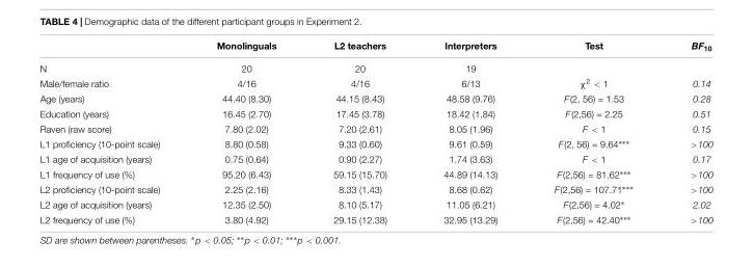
<table><thead><tr><td></td><td>Monolinguals</td><td>L2 teachers</td><td>Interpreters</td><td>Test</td><td>BF<sub>10</sub></td></tr></thead><tbody><tr><td>N</td><td>20</td><td>20</td><td>19</td><td></td><td></td></tr><tr><td>Male/female ratio</td><td>4/16</td><td>4/16</td><td>6/13</td><td>χ<sup>2</sup> &lt; 1</td><td>0.14</td></tr><tr><td>Age (years)</td><td>44.40 (8.30)</td><td>44.15 (8.43)</td><td>48.58 (9.76)</td><td>F(2, 56) = 1.53</td><td>0.28</td></tr><tr><td>Education (years)</td><td>16.45 (2.70)</td><td>17.45 (3.78)</td><td>18.42 (1.84)</td><td>F(2,56) = 2.25</td><td>0.51</td></tr><tr><td>Raven (raw score)</td><td>7.80 (2.02)</td><td>7.20 (2.61)</td><td>8.05 (1.96)</td><td>F &lt; 1</td><td>0.15</td></tr><tr><td>L1 proficiency (10-point scale)</td><td>8.80 (0.58)</td><td>9.33 (0.60)</td><td>9.61 (0.59)</td><td>F(2, 56) = 9.64∗∗∗</td><td>&gt;100</td></tr><tr><td>L1 age of acquisition (years)</td><td>0.75 (0.64)</td><td>0.90 (2.27)</td><td>1.74 (3.63)</td><td>F &lt; 1</td><td>0.17</td></tr><tr><td>L1 frequency of use (%)</td><td>95.20 (6.43)</td><td>59.15 (15.70)</td><td>44.89 (14.13)</td><td>F(2,56) = 81.62∗∗∗</td><td>&gt;100</td></tr><tr><td>L2 proficiency (10-point scale)</td><td>2.25 (2.16)</td><td>8.33 (1.43)</td><td>8.68 (0.62)</td><td>F(2,56) = 107.71∗∗∗</td><td>&gt;100</td></tr><tr><td>L2 age of acquisition (years)</td><td>12.35 (2.50)</td><td>8.10 (5.17)</td><td>11.05 (6.21)</td><td>F(2,56) = 4.02∗</td><td>2.02</td></tr><tr><td>L2 frequency of use (%)</td><td>3.80 (4.92)</td><td>29.15 (12.38)</td><td>32.95 (13.29)</td><td>F(2,56) = 42.40∗∗∗</td><td>&gt;100</td></tr></tbody></table>